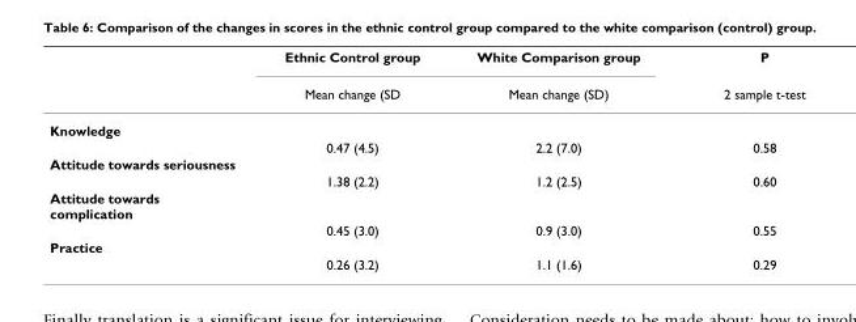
<table><thead><tr><td rowspan="2"></td><td rowspan="2">Ethnic Control group Mean change (SD</td><td rowspan="2">White Comparison group Mean change (SD)</td><td rowspan="2">P 2 sample t-test</td></tr><tr></tr></thead><tbody><tr><td colspan="4">Knowledge</td></tr><tr><td></td><td>0.47 (4.5)</td><td>2.2 (7.0)</td><td>0.58</td></tr><tr><td colspan="4">Attitude towards seriousness</td></tr><tr><td></td><td>1.38 (2.2)</td><td>1.2 (2.5)</td><td>0.60</td></tr><tr><td colspan="4">Attitude towards complication</td></tr><tr><td></td><td>0.45 (3.0)</td><td>0.9 (3.0)</td><td>0.55</td></tr><tr><td colspan="4">Practice</td></tr><tr><td></td><td>0.26 (3.2)</td><td>1.1 (1.6)</td><td>0.29</td></tr></tbody></table>